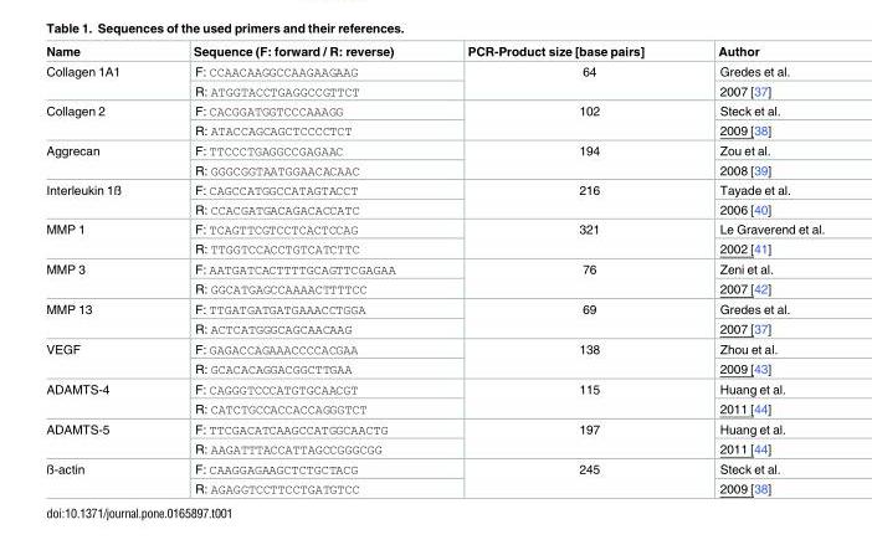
<table><thead><tr><td>Name</td><td>Sequence (F: forward / R: reverse)</td><td>PCR-Product size [base pairs]</td><td>Author</td></tr></thead><tbody><tr><td rowspan="2">Collagen 1A1</td><td>F: CCAACAAGGCCAAGAAGAAG</td><td rowspan="2">64</td><td>Gredes et al.</td></tr><tr><td>R: ATGGTACCTGAGGCCGTTCT</td><td>2007 [37]</td></tr><tr><td rowspan="2">Collagen 2</td><td>F: CACGGATGGTCCCAAAGG</td><td rowspan="2">102</td><td>Steck et al.</td></tr><tr><td>R: ATACCAGCAGCTCCCCTCT</td><td>2009 [38]</td></tr><tr><td rowspan="2">Aggrecan</td><td>F: TTCCCTGAGGCCGAGAAC</td><td rowspan="2">194</td><td>Zou et al.</td></tr><tr><td>R: GGGCGGTAATGGAACACAAC</td><td>2008 [39]</td></tr><tr><td rowspan="2">Interleukin 1ß</td><td>F: CAGCCATGGCCATAGTACCT</td><td rowspan="2">216</td><td>Tayade et al.</td></tr><tr><td>R: CCACGATGACAGACACCATC</td><td>2006 [40]</td></tr><tr><td rowspan="2">MMP 1</td><td>F: TCAGTTCGTCCTCACTCCAG</td><td rowspan="2">321</td><td>Le Graverend et al.</td></tr><tr><td>R: TTGGTCCACCTGTCATCTTC</td><td>2002 [41]</td></tr><tr><td rowspan="2">MMP 3</td><td>F: AATGATCACTTTTGCAGTTCGAGAA</td><td rowspan="2">76</td><td>Zeni et al.</td></tr><tr><td>R: GGCATGAGCCAAAACTTTTCC</td><td>2007 [42]</td></tr><tr><td rowspan="2">MMP 13</td><td>F: TTGATGATGATGAAACCTGGA</td><td rowspan="2">69</td><td>Gredes et al.</td></tr><tr><td>R: ACTCATGGGCAGCAACAAG</td><td>2007 [37]</td></tr><tr><td rowspan="2">VEGF</td><td>F: GAGACCAGAAACCCCACGAA</td><td rowspan="2">138</td><td>Zhou et al.</td></tr><tr><td>R: GCACACAGGACGGCTTGAA</td><td>2009 [43]</td></tr><tr><td rowspan="2">ADAMTS-4</td><td>F: CAGGGTCCCATGTGCAACGT</td><td rowspan="2">115</td><td>Huang et al.</td></tr><tr><td>R: CATCTGCCACCACCAGGGTCT</td><td>2011 [44]</td></tr><tr><td rowspan="2">ADAMTS-5</td><td>F: TTCGACATCAAGCCATGGCAACTG</td><td rowspan="2">197</td><td>Huang et al.</td></tr><tr><td>R: AAGATTTACCATTAGCCGGGCGG</td><td>2011 [44]</td></tr><tr><td rowspan="2">ß-actin</td><td>F: CAAGGAGAAGCTCTGCTACG</td><td rowspan="2">245</td><td>Steck et al.</td></tr><tr><td>R: AGAGGTCCTTCCTGATGTCC</td><td>2009 [38]</td></tr></tbody></table>